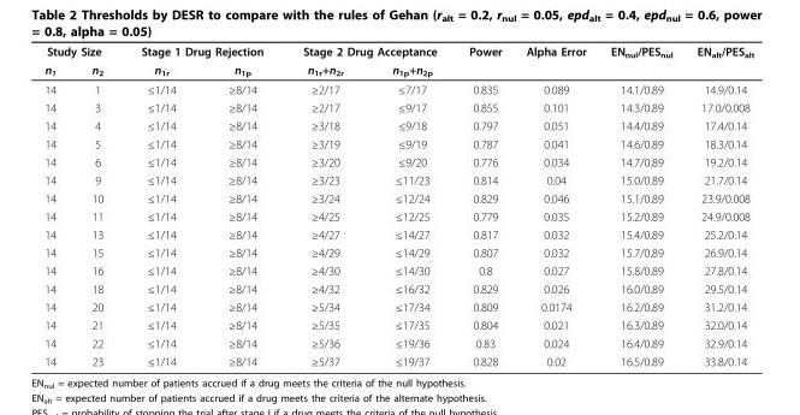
<table><thead><tr><td colspan="2">Study Size</td><td colspan="2">Stage 1 Drug Rejection</td><td colspan="2">Stage 2 Drug Acceptance</td><td rowspan="2">Power</td><td rowspan="2">Alpha Error</td><td rowspan="2">EN<sub>nul</sub>/PES<sub>nul</sub></td><td rowspan="2">EN<sub>alt</sub>/PES<sub>alt</sub></td></tr><tr><td>n<sub>1</sub></td><td>n<sub>2</sub></td><td>n<sub>1r</sub></td><td>n<sub>1p</sub></td><td>n<sub>1r</sub>+n<sub>2r</sub></td><td>n<sub>1p</sub>+n<sub>2p</sub></td></tr></thead><tbody><tr><td>14</td><td>1</td><td>≤1/14</td><td>≥8/14</td><td>≥2/17</td><td>≤7/17</td><td>0.835</td><td>0.089</td><td>14.1/0.89</td><td>14.9/0.14</td></tr><tr><td>14</td><td>3</td><td>≤1/14</td><td>≥8/14</td><td>≥2/17</td><td>≤9/17</td><td>0.855</td><td>0.101</td><td>14.3/0.89</td><td>17.0/0.008</td></tr><tr><td>14</td><td>4</td><td>≤1/14</td><td>≥8/14</td><td>≥3/18</td><td>≤9/18</td><td>0.797</td><td>0.051</td><td>14.4/0.89</td><td>17.4/0.14</td></tr><tr><td>14</td><td>5</td><td>≤1/14</td><td>≥8/14</td><td>≥3/19</td><td>≤9/19</td><td>0.787</td><td>0.041</td><td>14.6/0.89</td><td>18.3/0.14</td></tr><tr><td>14</td><td>6</td><td>≤1/14</td><td>≥8/14</td><td>≥3/20</td><td>≤9/20</td><td>0.776</td><td>0.034</td><td>14.7/0.89</td><td>19.2/0.14</td></tr><tr><td>14</td><td>9</td><td>≤1/14</td><td>≥8/14</td><td>≥3/23</td><td>≤11/23</td><td>0.814</td><td>0.04</td><td>15.0/0.89</td><td>21.7/0.14</td></tr><tr><td>14</td><td>10</td><td>≤1/14</td><td>≥8/14</td><td>≥3/24</td><td>≤12/24</td><td>0.829</td><td>0.046</td><td>15.1/0.89</td><td>23.9/0.008</td></tr><tr><td>14</td><td>11</td><td>≤1/14</td><td>≥8/14</td><td>≥4/25</td><td>≤12/25</td><td>0.779</td><td>0.035</td><td>15.2/0.89</td><td>24.9/0.008</td></tr><tr><td>14</td><td>13</td><td>≤1/14</td><td>≥8/14</td><td>≥4/27</td><td>≤14/27</td><td>0.817</td><td>0.032</td><td>15.4/0.89</td><td>25.2/0.14</td></tr><tr><td>14</td><td>15</td><td>≤1/14</td><td>≥8/14</td><td>≥4/29</td><td>≤14/29</td><td>0.807</td><td>0.032</td><td>15.7/0.89</td><td>26.9/0.14</td></tr><tr><td>14</td><td>16</td><td>≤1/14</td><td>≥8/14</td><td>≥4/30</td><td>≤14/30</td><td>0.8</td><td>0.027</td><td>15.8/0.89</td><td>27.8/0.14</td></tr><tr><td>14</td><td>18</td><td>≤1/14</td><td>≥8/14</td><td>≥4/32</td><td>≤16/32</td><td>0.829</td><td>0.026</td><td>16.0/0.89</td><td>29.5/0.14</td></tr><tr><td>14</td><td>20</td><td>≤1/14</td><td>≥8/14</td><td>≥5/34</td><td>≤17/34</td><td>0.809</td><td>0.0174</td><td>16.2/0.89</td><td>31.2/0.14</td></tr><tr><td>14</td><td>21</td><td>≤1/14</td><td>≥8/14</td><td>≥5/35</td><td>≤17/35</td><td>0.804</td><td>0.021</td><td>16.3/0.89</td><td>32.0/0.14</td></tr><tr><td>14</td><td>22</td><td>≤1/14</td><td>≥8/14</td><td>≥5/36</td><td>≤19/36</td><td>0.83</td><td>0.024</td><td>16.4/0.89</td><td>32.9/0.14</td></tr><tr><td>14</td><td>23</td><td>≤1/14</td><td>≥8/14</td><td>≥5/37</td><td>≤19/37</td><td>0.828</td><td>0.02</td><td>16.5/0.89</td><td>33.8/0.14</td></tr></tbody></table>